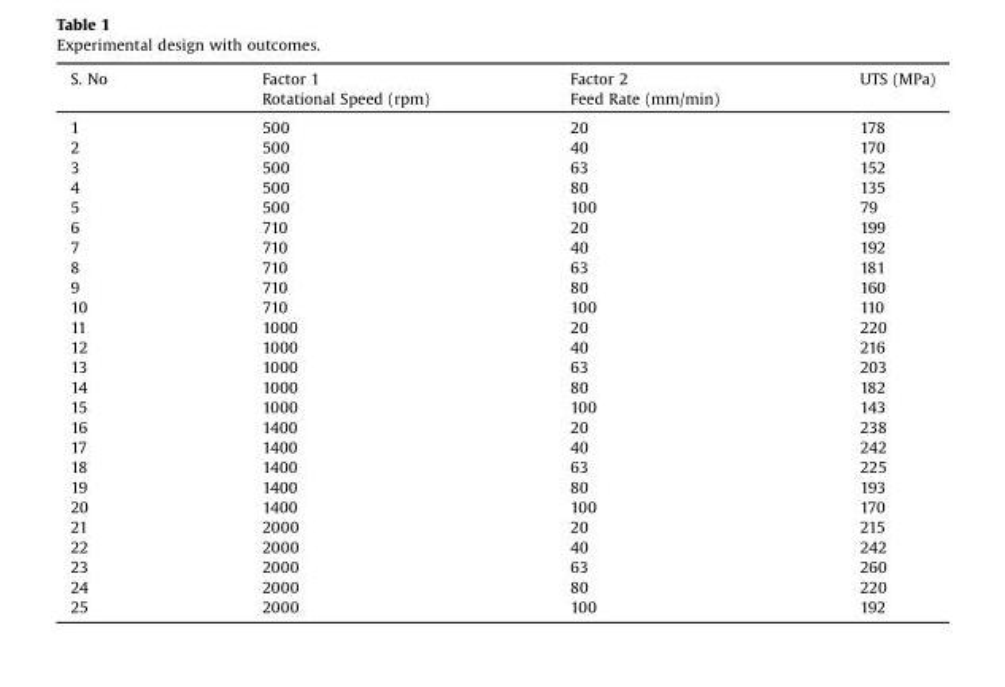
<table><thead><tr><td>S. No</td><td>Factor 1 Rotational Speed (rpm)</td><td>Factor 2 Feed Rate (mm/min)</td><td>UTS (MPa)</td></tr></thead><tbody><tr><td>1</td><td>500</td><td>20</td><td>178</td></tr><tr><td>2</td><td>500</td><td>40</td><td>170</td></tr><tr><td>3</td><td>500</td><td>63</td><td>152</td></tr><tr><td>4</td><td>500</td><td>80</td><td>135</td></tr><tr><td>5</td><td>500</td><td>100</td><td>79</td></tr><tr><td>6</td><td>710</td><td>20</td><td>199</td></tr><tr><td>7</td><td>710</td><td>40</td><td>192</td></tr><tr><td>8</td><td>710</td><td>63</td><td>181</td></tr><tr><td>9</td><td>710</td><td>80</td><td>160</td></tr><tr><td>10</td><td>710</td><td>100</td><td>110</td></tr><tr><td>11</td><td>1000</td><td>20</td><td>220</td></tr><tr><td>12</td><td>1000</td><td>40</td><td>216</td></tr><tr><td>13</td><td>1000</td><td>63</td><td>203</td></tr><tr><td>14</td><td>1000</td><td>80</td><td>182</td></tr><tr><td>15</td><td>1000</td><td>100</td><td>143</td></tr><tr><td>16</td><td>1400</td><td>20</td><td>238</td></tr><tr><td>17</td><td>1400</td><td>40</td><td>242</td></tr><tr><td>18</td><td>1400</td><td>63</td><td>225</td></tr><tr><td>19</td><td>1400</td><td>80</td><td>193</td></tr><tr><td>20</td><td>1400</td><td>100</td><td>170</td></tr><tr><td>21</td><td>2000</td><td>20</td><td>215</td></tr><tr><td>22</td><td>2000</td><td>40</td><td>242</td></tr><tr><td>23</td><td>2000</td><td>63</td><td>260</td></tr><tr><td>24</td><td>2000</td><td>80</td><td>220</td></tr><tr><td>25</td><td>2000</td><td>100</td><td>192</td></tr></tbody></table>